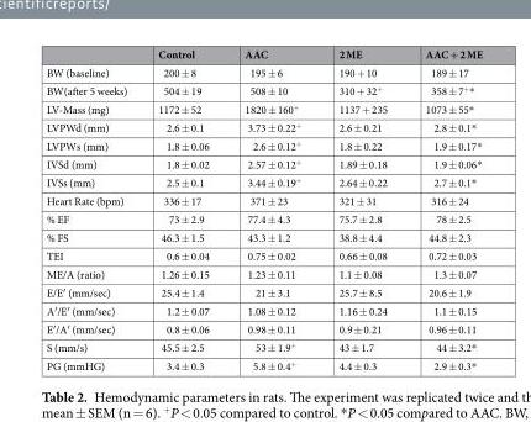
<table><thead><tr><td></td><td>Control</td><td>AAC</td><td>2 ME</td><td>AAC + 2 ME</td></tr></thead><tbody><tr><td>BW (baseline)</td><td>200 ± 8</td><td>195 ± 6</td><td>190 + 10</td><td>189 ± 17</td></tr><tr><td>BW(after 5 weeks)</td><td>504 ± 19</td><td>508 ± 10</td><td>310 + 32<sup>+</sup></td><td>358 ± 7<sup>+</sup>*</td></tr><tr><td>LV-Mass (mg)</td><td>1172 ± 52</td><td>1820 ± 160<sup>+</sup></td><td>1137 + 235</td><td>1073 ± 55*</td></tr><tr><td>LVPWd (mm)</td><td>2.6 ± 0.1</td><td>3.73 ± 0.22<sup>+</sup></td><td>2.6 ± 0.21</td><td>2.8 ± 0.1*</td></tr><tr><td>LVPWs (mm)</td><td>1.8 ± 0.06</td><td>2.6 ± 0.12<sup>+</sup></td><td>1.8 ± 0.22</td><td>1.9 ± 0.17*</td></tr><tr><td>IVSd (mm)</td><td>1.8 ± 0.02</td><td>2.57 ± 0.12<sup>+</sup></td><td>1.89 ± 0.18</td><td>1.9 ± 0.06*</td></tr><tr><td>IVSs (mm)</td><td>2.5 ± 0.1</td><td>3.44 ± 0.19<sup>+</sup></td><td>2.64 ± 0.22</td><td>2.7 ± 0.1*</td></tr><tr><td>Heart Rate (bpm)</td><td>336 ± 17</td><td>371 ± 23</td><td>321 ± 31</td><td>316 ± 24</td></tr><tr><td>% EF</td><td>73 ± 2.9</td><td>77.4 ± 4.3</td><td>75.7 ± 2.8</td><td>78 ± 2.5</td></tr><tr><td>% FS</td><td>46.3 ± 1.5</td><td>43.3 ± 1.2</td><td>38.8 ± 4.4</td><td>44.8 ± 2.3</td></tr><tr><td>TEI</td><td>0.6 ± 0.04</td><td>0.75 ± 0.02</td><td>0.66 ± 0.08</td><td>0.72 ± 0.03</td></tr><tr><td>ME/A (ratio)</td><td>1.26 ± 0.15</td><td>1.23 ± 0.11</td><td>1.1 ± 0.08</td><td>1.3 ± 0.07</td></tr><tr><td>E/E′ (mm/sec)</td><td>25.4 ± 1.4</td><td>21 ± 3.1</td><td>25.7 ± 8.5</td><td>20.6 ± 1.9</td></tr><tr><td>A′/E′ (mm/sec)</td><td>1.2 ± 0.07</td><td>1.08 ± 0.12</td><td>1.16 ± 0.24</td><td>1.1 ± 0.15</td></tr><tr><td>E′/A′ (mm/sec)</td><td>0.8 ± 0.06</td><td>0.98 ± 0.11</td><td>0.9 ± 0.21</td><td>0.96 ± 0.11</td></tr><tr><td>S (mm/s)</td><td>45.5 ± 2.5</td><td>53 ± 1.9<sup>+</sup></td><td>43 ± 1.7</td><td>44 ± 3.2*</td></tr><tr><td>PG (mmHG)</td><td>3.4 ± 0.3</td><td>5.8 ± 0.4<sup>+</sup></td><td>4.4 ± 0.3</td><td>2.9 ± 0.3*</td></tr></tbody></table>